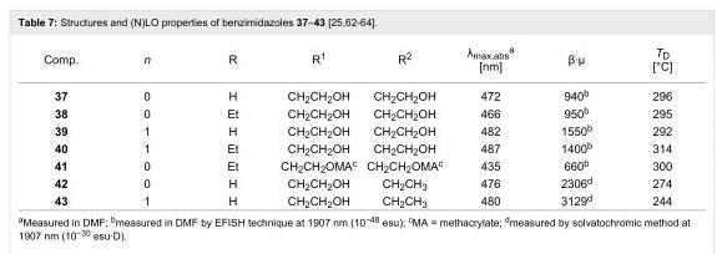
<table><tbody><tr><td>Comp.</td><td>n</td><td>R</td><td>R<sup>1</sup></td><td>R<sup>2</sup></td><td>λ<sub>max,abs</sub><sup>a</sup> [nm]</td><td>β·μ</td><td>T<sub>D</sub> [°C]</td></tr><tr><td>37</td><td>0</td><td>H</td><td>CH<sub>2</sub>CH<sub>2</sub>OH</td><td>CH<sub>2</sub>CH<sub>2</sub>OH</td><td>472</td><td>940<sup>b</sup></td><td>296</td></tr><tr><td>38</td><td>0</td><td>Et</td><td>CH<sub>2</sub>CH<sub>2</sub>OH</td><td>CH<sub>2</sub>CH<sub>2</sub>OH</td><td>466</td><td>950<sup>b</sup></td><td>295</td></tr><tr><td>39</td><td>1</td><td>H</td><td>CH<sub>2</sub>CH<sub>2</sub>OH</td><td>CH<sub>2</sub>CH<sub>2</sub>OH</td><td>482</td><td>1550<sup>b</sup></td><td>292</td></tr><tr><td>40</td><td>1</td><td>Et</td><td>CH<sub>2</sub>CH<sub>2</sub>OH</td><td>CH<sub>2</sub>CH<sub>2</sub>OH</td><td>487</td><td>1400<sup>b</sup></td><td>314</td></tr><tr><td>41</td><td>0</td><td>Et</td><td>CH<sub>2</sub>CH<sub>2</sub>OMA<sup>c</sup></td><td>CH<sub>2</sub>CH<sub>2</sub>OMA<sup>c</sup></td><td>435</td><td>660<sup>b</sup></td><td>300</td></tr><tr><td>42</td><td>0</td><td>H</td><td>CH<sub>2</sub>CH<sub>2</sub>OH</td><td>CH<sub>2</sub>CH<sub>3</sub></td><td>476</td><td>2306<sup>d</sup></td><td>274</td></tr><tr><td>43</td><td>1</td><td>H</td><td>CH<sub>2</sub>CH<sub>2</sub>OH</td><td>CH<sub>2</sub>CH<sub>3</sub></td><td>480</td><td>3129<sup>d</sup></td><td>244</td></tr></tbody></table>